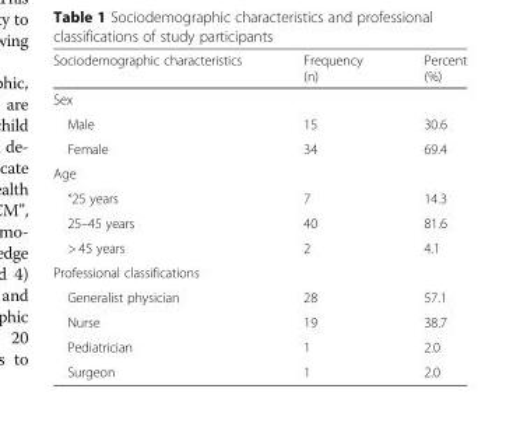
<table><thead><tr><td>Sociodemographic characteristics</td><td>Frequency (n)</td><td>Percent (%)</td></tr></thead><tbody><tr><td colspan="3">Sex</td></tr><tr><td>Male</td><td>15</td><td>30.6</td></tr><tr><td>Female</td><td>34</td><td>69.4</td></tr><tr><td colspan="3">Age</td></tr><tr><td>˂25 years</td><td>7</td><td>14.3</td></tr><tr><td>25–45 years</td><td>40</td><td>81.6</td></tr><tr><td>&gt; 45 years</td><td>2</td><td>4.1</td></tr><tr><td colspan="3">Professional classifications</td></tr><tr><td>Generalist physician</td><td>28</td><td>57.1</td></tr><tr><td>Nurse</td><td>19</td><td>38.7</td></tr><tr><td>Pediatrician</td><td>1</td><td>2.0</td></tr><tr><td>Surgeon</td><td>1</td><td>2.0</td></tr></tbody></table>